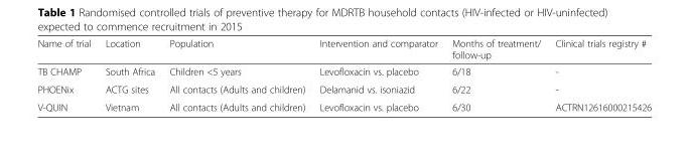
<table><thead><tr><td>Name of trial</td><td>Location</td><td>Population</td><td>Intervention and comparator</td><td>Months of treatment/ follow-up</td><td>Clinical trials registry #</td></tr></thead><tbody><tr><td>TB CHAMP</td><td>South Africa</td><td>Children &lt;5 years</td><td>Levofloxacin vs. placebo</td><td>6/18</td><td>-</td></tr><tr><td>PHOENix</td><td>ACTG sites</td><td>All contacts (Adults and children)</td><td>Delamanid vs. isoniazid</td><td>6/22</td><td>-</td></tr><tr><td>V-QUIN</td><td>Vietnam</td><td>All contacts (Adults and children)</td><td>Levofloxacin vs. placebo</td><td>6/30</td><td>ACTRN12616000215426</td></tr></tbody></table>